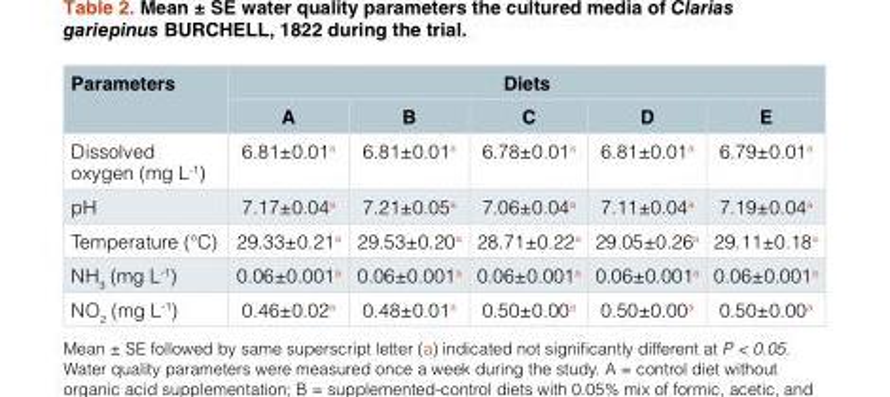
<table><thead><tr><td rowspan="2">Parameters</td><td colspan="5">Diets</td></tr><tr><td>A</td><td>B</td><td>C</td><td>D</td><td>E</td></tr></thead><tbody><tr><td>Dissolved oxygen (mg L<sup>-1</sup>)</td><td>6.81±0.01<sup>a</sup></td><td>6.81±0.01<sup>a</sup></td><td>6.78±0.01<sup>a</sup></td><td>6.81±0.01<sup>a</sup></td><td>6.79±0.01<sup>a</sup></td></tr><tr><td>pH</td><td>7.17±0.04<sup>a</sup></td><td>7.21±0.05<sup>a</sup></td><td>7.06±0.04<sup>a</sup></td><td>7.11±0.04<sup>a</sup></td><td>7.19±0.04<sup>a</sup></td></tr><tr><td>Temperature (°C)</td><td>29.33±0.21<sup>a</sup></td><td>29.53±0.20<sup>a</sup></td><td>28.71±0.22<sup>a</sup></td><td>29.05±0.26<sup>a</sup></td><td>29.11±0.18<sup>a</sup></td></tr><tr><td>NH<sub>3</sub> (mg L<sup>-1</sup>)</td><td>0.06±0.001<sup>a</sup></td><td>0.06±0.001<sup>a</sup></td><td>0.06±0.001<sup>a</sup></td><td>0.06±0.001<sup>a</sup></td><td>0.06±0.001<sup>a</sup></td></tr><tr><td>NO<sub>2</sub> (mg L<sup>-1</sup>)</td><td>0.46±0.02<sup>a</sup></td><td>0.48±0.01<sup>a</sup></td><td>0.50±0.00<sup>a</sup></td><td>0.50±0.00<sup>a</sup></td><td>0.50±0.00<sup>a</sup></td></tr></tbody></table>